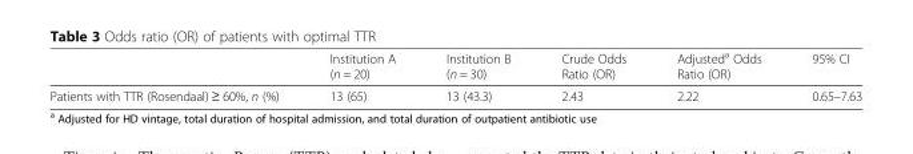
<table><thead><tr><td></td><td>Institution A (n = 20)</td><td>Institution B (n = 30)</td><td>Crude Odds Ratio (OR)</td><td>Adjusted<sup>a</sup> Odds Ratio (OR)</td><td>95% CI</td></tr></thead><tbody><tr><td>Patients with TTR (Rosendaal) ≥ 60%, n (%)</td><td>13 (65)</td><td>13 (43.3)</td><td>2.43</td><td>2.22</td><td>0.65–7.63</td></tr></tbody></table>